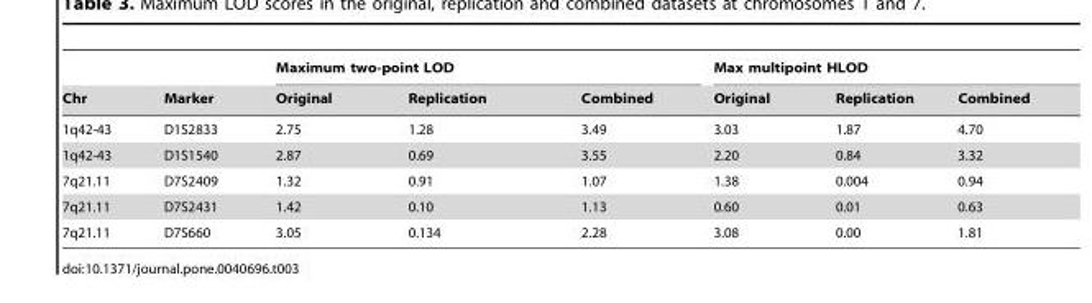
<table><thead><tr><td rowspan="2">Chr</td><td rowspan="2">Marker</td><td colspan="3">Maximum two-point LOD</td><td colspan="3">Max multipoint HLOD</td></tr><tr><td>Original</td><td>Replication</td><td>Combined</td><td>Original</td><td>Replication</td><td>Combined</td></tr></thead><tbody><tr><td>1q42-43</td><td>D1S2833</td><td>2.75</td><td>1.28</td><td>3.49</td><td>3.03</td><td>1.87</td><td>4.70</td></tr><tr><td>1q42-43</td><td>D1S1540</td><td>2.87</td><td>0.69</td><td>3.55</td><td>2.20</td><td>0.84</td><td>3.32</td></tr><tr><td>7q21.11</td><td>D7S2409</td><td>1.32</td><td>0.91</td><td>1.07</td><td>1.38</td><td>0.004</td><td>0.94</td></tr><tr><td>7q21.11</td><td>D7S2431</td><td>1.42</td><td>0.10</td><td>1.13</td><td>0.60</td><td>0.01</td><td>0.63</td></tr><tr><td>7q21.11</td><td>D7S660</td><td>3.05</td><td>0.134</td><td>2.28</td><td>3.08</td><td>0.00</td><td>1.81</td></tr></tbody></table>